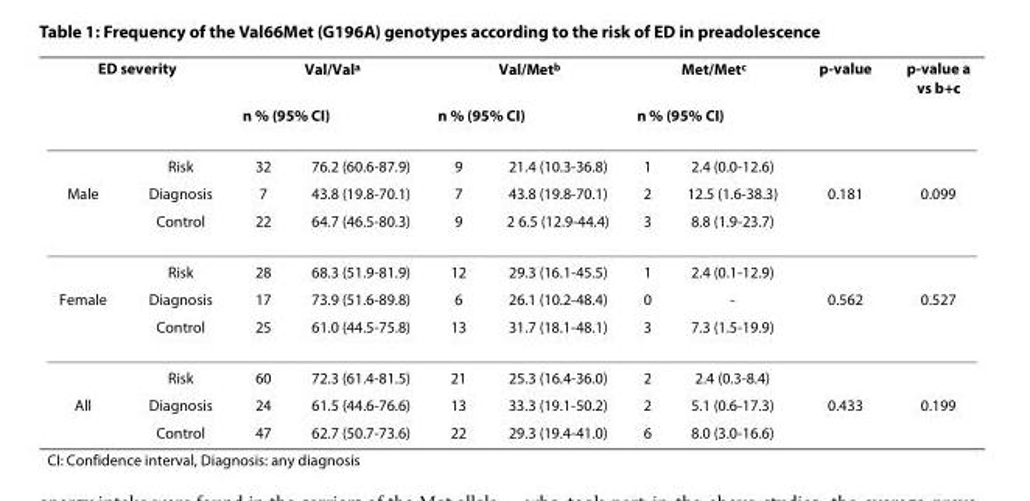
<table><thead><tr><td colspan="2">ED severity</td><td rowspan="2" colspan="2">Val/Val<sup>a</sup> n % (95% CI)</td><td rowspan="2" colspan="2">Val/Met<sup>b</sup> n % (95% CI)</td><td rowspan="2" colspan="2">Met/Met<sup>c</sup> n % (95% CI)</td><td rowspan="3">p-value</td><td rowspan="3">p-value a vs b+c</td></tr><tr><td rowspan="2"></td><td rowspan="2">Risk</td></tr><tr><td>32</td><td>76.2 (60.6-87.9)</td><td>9</td><td>21.4 (10.3-36.8)</td><td>1</td><td>2.4 (0.0-12.6)</td></tr></thead><tbody><tr><td rowspan="3">Male</td><td>Diagnosis</td><td>7</td><td>43.8 (19.8-70.1)</td><td>7</td><td>43.8 (19.8-70.1)</td><td>2</td><td>12.5 (1.6-38.3)</td><td>0.181</td><td>0.099</td></tr><tr><td>Control</td><td>22</td><td>64.7 (46.5-80.3)</td><td>9</td><td>2 6.5 (12.9-44.4)</td><td>3</td><td>8.8 (1.9-23.7)</td><td></td><td></td></tr><tr><td>Risk</td><td>28</td><td>68.3 (51.9-81.9)</td><td>12</td><td>29.3 (16.1-45.5)</td><td>1</td><td>2.4 (0.1-12.9)</td><td></td><td></td></tr><tr><td rowspan="3">Female</td><td>Diagnosis</td><td>17</td><td>73.9 (51.6-89.8)</td><td>6</td><td>26.1 (10.2-48.4)</td><td>0</td><td>-</td><td>0.562</td><td>0.527</td></tr><tr><td>Control</td><td>25</td><td>61.0 (44.5-75.8)</td><td>13</td><td>31.7 (18.1-48.1)</td><td>3</td><td>7.3 (1.5-19.9)</td><td></td><td></td></tr><tr><td>Risk</td><td>60</td><td>72.3 (61.4-81.5)</td><td>21</td><td>25.3 (16.4-36.0)</td><td>2</td><td>2.4 (0.3-8.4)</td><td></td><td></td></tr><tr><td rowspan="2">All</td><td>Diagnosis</td><td>24</td><td>61.5 (44.6-76.6)</td><td>13</td><td>33.3 (19.1-50.2)</td><td>2</td><td>5.1 (0.6-17.3)</td><td>0.433</td><td>0.199</td></tr><tr><td>Control</td><td>47</td><td>62.7 (50.7-73.6)</td><td>22</td><td>29.3 (19.4-41.0)</td><td>6</td><td>8.0 (3.0-16.6)</td><td></td><td></td></tr></tbody></table>